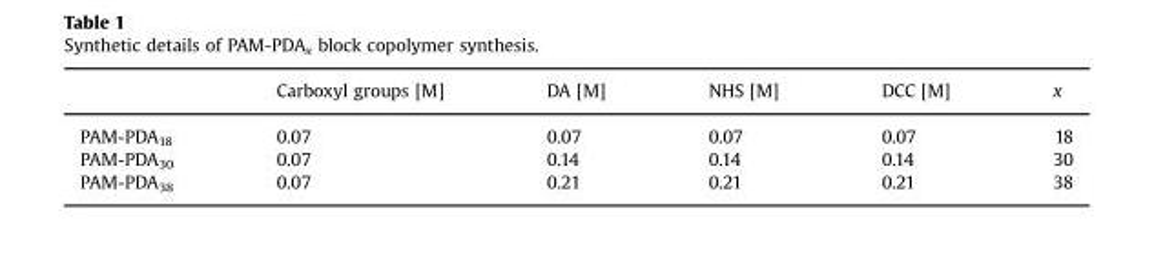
<table><thead><tr><td></td><td>Carboxyl groups [M]</td><td>DA [M]</td><td>NHS [M]</td><td>DCC [M]</td><td>x</td></tr></thead><tbody><tr><td>PAM-PDA<sub>18</sub></td><td>0.07</td><td>0.07</td><td>0.07</td><td>0.07</td><td>18</td></tr><tr><td>PAM-PDA<sub>30</sub></td><td>0.07</td><td>0.14</td><td>0.14</td><td>0.14</td><td>30</td></tr><tr><td>PAM-PDA<sub>38</sub></td><td>0.07</td><td>0.21</td><td>0.21</td><td>0.21</td><td>38</td></tr></tbody></table>